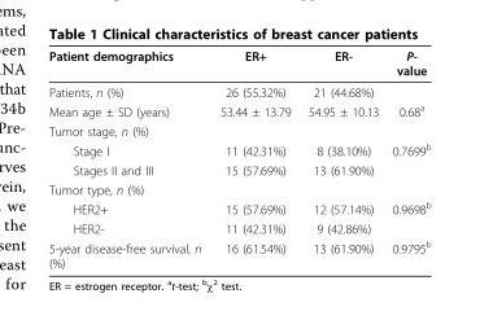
<table><thead><tr><td>Patient demographics</td><td>ER+</td><td>ER-</td><td>P- value</td></tr></thead><tbody><tr><td>Patients, n (%)</td><td>26 (55.32%)</td><td>21 (44.68%)</td><td></td></tr><tr><td>Mean age ± SD (years)</td><td>53.44 ± 13.79</td><td>54.95 ± 10.13</td><td>0.68<sup>a</sup></td></tr><tr><td colspan="4">Tumor stage, n (%)</td></tr><tr><td>Stage I</td><td>11 (42.31%)</td><td>8 (38.10%)</td><td>0.7699<sup>b</sup></td></tr><tr><td>Stages II and III</td><td>15 (57.69%)</td><td>13 (61.90%)</td><td></td></tr><tr><td colspan="4">Tumor type, n (%)</td></tr><tr><td>HER2+</td><td>15 (57.69%)</td><td>12 (57.14%)</td><td>0.9698<sup>b</sup></td></tr><tr><td>HER2-</td><td>11 (42.31%)</td><td>9 (42.86%)</td><td></td></tr><tr><td>5-year disease-free survival, n (%)</td><td>16 (61.54%)</td><td>13 (61.90%)</td><td>0.9795<sup>b</sup></td></tr></tbody></table>